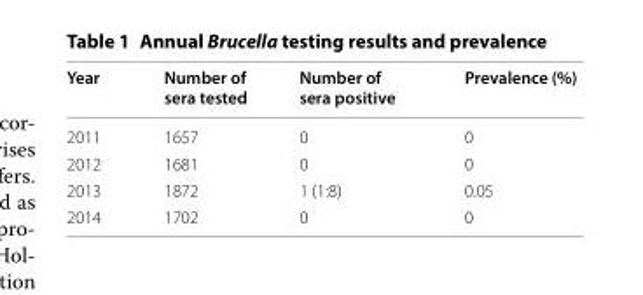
<table><thead><tr><td>Year</td><td>Number of sera tested</td><td>Number of sera positive</td><td>Prevalence (%)</td></tr></thead><tbody><tr><td>2011</td><td>1657</td><td>0</td><td>0</td></tr><tr><td>2012</td><td>1681</td><td>0</td><td>0</td></tr><tr><td>2013</td><td>1872</td><td>1 (1:8)</td><td>0.05</td></tr><tr><td>2014</td><td>1702</td><td>0</td><td>0</td></tr></tbody></table>